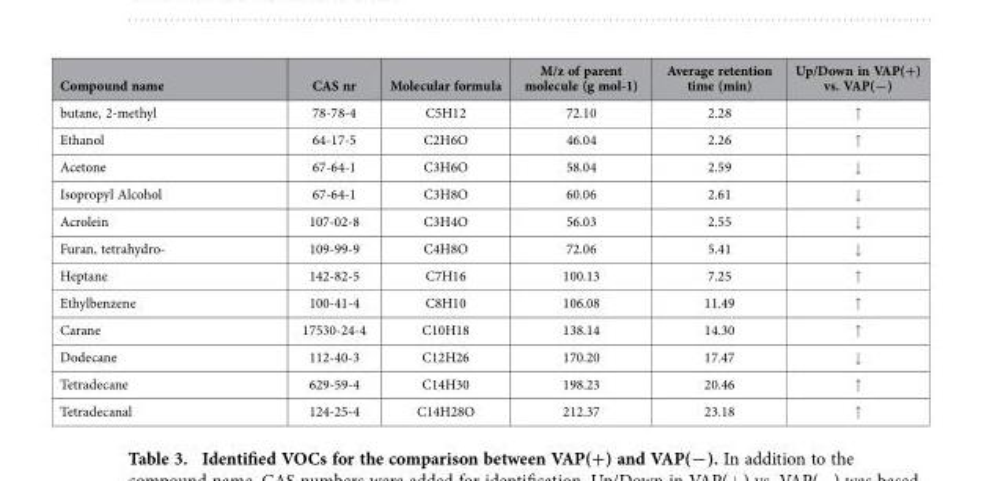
<table><thead><tr><td>Compound name</td><td>CAS nr</td><td>Molecular formula</td><td>M/z of parent molecule (g mol-1)</td><td>Average retention time (min)</td><td>Up/Down in VAP(+) vs. VAP(−)</td></tr></thead><tbody><tr><td>butane, 2-methyl</td><td>78-78-4</td><td>C5H12</td><td>72.10</td><td>2.28</td><td>↑</td></tr><tr><td>Ethanol</td><td>64-17-5</td><td>C2H6O</td><td>46.04</td><td>2.26</td><td>↑</td></tr><tr><td>Acetone</td><td>67-64-1</td><td>C3H6O</td><td>58.04</td><td>2.59</td><td>↓</td></tr><tr><td>Isopropyl Alcohol</td><td>67-64-1</td><td>C3H8O</td><td>60.06</td><td>2.61</td><td>↓</td></tr><tr><td>Acrolein</td><td>107-02-8</td><td>C3H4O</td><td>56.03</td><td>2.55</td><td>↓</td></tr><tr><td>Furan, tetrahydro-</td><td>109-99-9</td><td>C4H8O</td><td>72.06</td><td>5.41</td><td>↓</td></tr><tr><td>Heptane</td><td>142-82-5</td><td>C7H16</td><td>100.13</td><td>7.25</td><td>↑</td></tr><tr><td>Ethylbenzene</td><td>100-41-4</td><td>C8H10</td><td>106.08</td><td>11.49</td><td>↑</td></tr><tr><td>Carane</td><td>17530-24-4</td><td>C10H18</td><td>138.14</td><td>14.30</td><td>↑</td></tr><tr><td>Dodecane</td><td>112-40-3</td><td>C12H26</td><td>170.20</td><td>17.47</td><td>↓</td></tr><tr><td>Tetradecane</td><td>629-59-4</td><td>C14H30</td><td>198.23</td><td>20.46</td><td>↑</td></tr><tr><td>Tetradecanal</td><td>124-25-4</td><td>C14H28O</td><td>212.37</td><td>23.18</td><td>↑</td></tr></tbody></table>